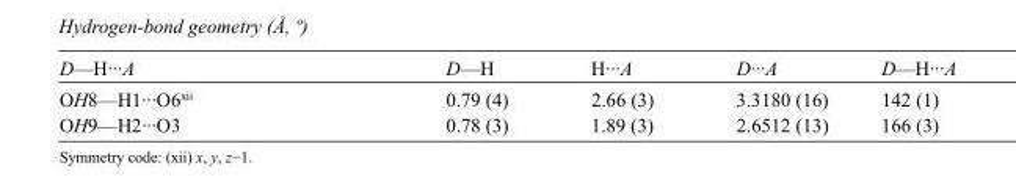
<table><tbody><tr><td>D—H···A</td><td>D—H</td><td>H···A</td><td>D···A</td><td>D—H···A</td></tr><tr><td>OH8—H1···O6<sup>xii</sup></td><td>0.79 (4)</td><td>2.66 (3)</td><td>3.3180 (16)</td><td>142 (1)</td></tr><tr><td>OH9—H2···O3</td><td>0.78 (3)</td><td>1.89 (3)</td><td>2.6512 (13)</td><td>166 (3)</td></tr></tbody></table>